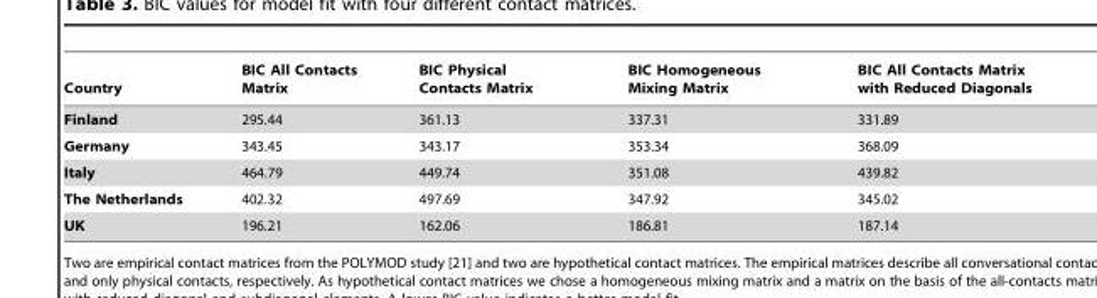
<table><thead><tr><td>Country</td><td>BIC All Contacts Matrix</td><td>BIC Physical Contacts Matrix</td><td>BIC Homogeneous Mixing Matrix</td><td>BIC All Contacts Matrix with Reduced Diagonals</td></tr></thead><tbody><tr><td>Finland</td><td>295.44</td><td>361.13</td><td>337.31</td><td>331.89</td></tr><tr><td>Germany</td><td>343.45</td><td>343.17</td><td>353.34</td><td>368.09</td></tr><tr><td>Italy</td><td>464.79</td><td>449.74</td><td>351.08</td><td>439.82</td></tr><tr><td>The Netherlands</td><td>402.32</td><td>497.69</td><td>347.92</td><td>345.02</td></tr><tr><td>UK</td><td>196.21</td><td>162.06</td><td>186.81</td><td>187.14</td></tr></tbody></table>